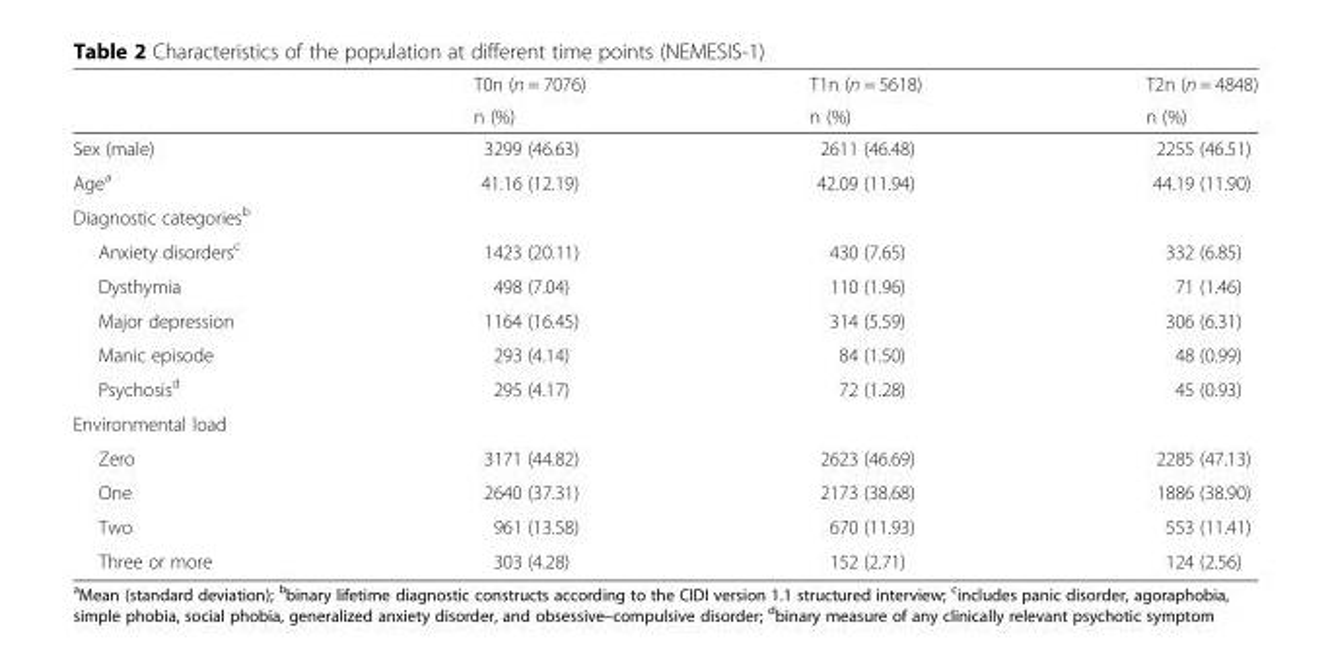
<table><thead><tr><td rowspan="2"></td><td rowspan="2">T0n (n = 7076) n (%)</td><td rowspan="2">T1n (n = 5618) n (%)</td><td rowspan="2">T2n (n = 4848) n (%)</td></tr><tr></tr></thead><tbody><tr><td>Sex (male)</td><td>3299 (46.63)</td><td>2611 (46.48)</td><td>2255 (46.51)</td></tr><tr><td>Age<sup>a</sup></td><td>41.16 (12.19)</td><td>42.09 (11.94)</td><td>44.19 (11.90)</td></tr><tr><td colspan="4">Diagnostic categories<sup>b</sup></td></tr><tr><td>Anxiety disorders<sup>c</sup></td><td>1423 (20.11)</td><td>430 (7.65)</td><td>332 (6.85)</td></tr><tr><td>Dysthymia</td><td>498 (7.04)</td><td>110 (1.96)</td><td>71 (1.46)</td></tr><tr><td>Major depression</td><td>1164 (16.45)</td><td>314 (5.59)</td><td>306 (6.31)</td></tr><tr><td>Manic episode</td><td>293 (4.14)</td><td>84 (1.50)</td><td>48 (0.99)</td></tr><tr><td>Psychosis<sup>d</sup></td><td>295 (4.17)</td><td>72 (1.28)</td><td>45 (0.93)</td></tr><tr><td colspan="4">Environmental load</td></tr><tr><td>Zero</td><td>3171 (44.82)</td><td>2623 (46.69)</td><td>2285 (47.13)</td></tr><tr><td>One</td><td>2640 (37.31)</td><td>2173 (38.68)</td><td>1886 (38.90)</td></tr><tr><td>Two</td><td>961 (13.58)</td><td>670 (11.93)</td><td>553 (11.41)</td></tr><tr><td>Three or more</td><td>303 (4.28)</td><td>152 (2.71)</td><td>124 (2.56)</td></tr></tbody></table>